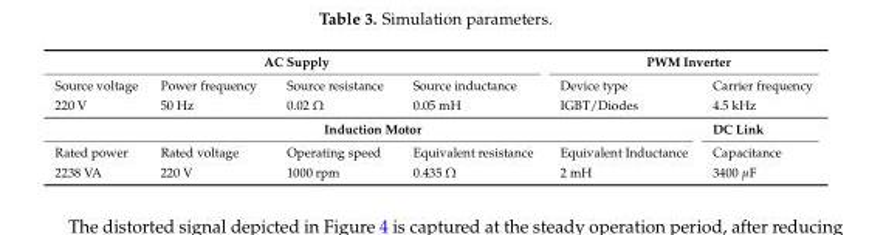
<table><thead><tr><td colspan="4">AC Supply</td><td colspan="2">PWM Inverter</td></tr><tr><td>Source voltage</td><td>Power frequency</td><td>Source resistance</td><td>Source inductance</td><td>Device type</td><td>Carrier frequency</td></tr></thead><tbody><tr><td>220 V</td><td>50 Hz</td><td>0.02 Ω</td><td>0.05 mH</td><td>IGBT/Diodes</td><td>4.5 kHz</td></tr><tr><td colspan="5">Induction Motor</td><td>DC Link</td></tr><tr><td>Rated power</td><td>Rated voltage</td><td>Operating speed</td><td>Equivalent resistance</td><td>Equivalent Inductance</td><td>Capacitance</td></tr><tr><td>2238 VA</td><td>220 V</td><td>1000 rpm</td><td>0.435 Ω</td><td>2 mH</td><td>3400 µF</td></tr></tbody></table>